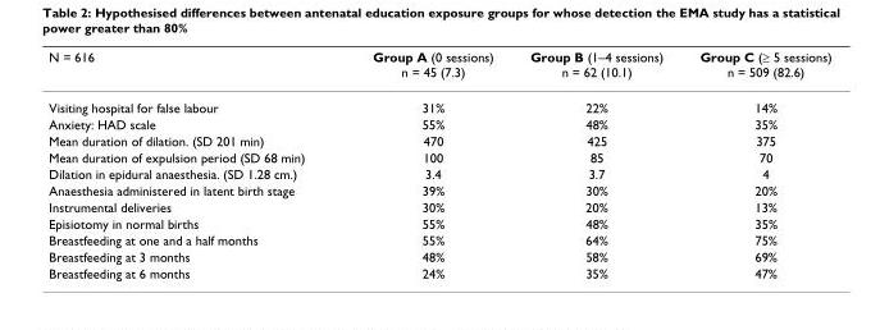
<table><thead><tr><td>N = 616</td><td>Group A (0 sessions) n = 45 (7.3)</td><td>Group B (1–4 sessions) n = 62 (10.1)</td><td>Group C (≥ 5 sessions) n = 509 (82.6)</td></tr></thead><tbody><tr><td>Visiting hospital for false labour</td><td>31%</td><td>22%</td><td>14%</td></tr><tr><td>Anxiety: HAD scale</td><td>55%</td><td>48%</td><td>35%</td></tr><tr><td>Mean duration of dilation. (SD 201 min)</td><td>470</td><td>425</td><td>375</td></tr><tr><td>Mean duration of expulsion period (SD 68 min)</td><td>100</td><td>85</td><td>70</td></tr><tr><td>Dilation in epidural anaesthesia. (SD 1.28 cm.)</td><td>3.4</td><td>3.7</td><td>4</td></tr><tr><td>Anaesthesia administered in latent birth stage</td><td>39%</td><td>30%</td><td>20%</td></tr><tr><td>Instrumental deliveries</td><td>30%</td><td>20%</td><td>13%</td></tr><tr><td>Episiotomy in normal births</td><td>55%</td><td>48%</td><td>35%</td></tr><tr><td>Breastfeeding at one and a half months</td><td>55%</td><td>64%</td><td>75%</td></tr><tr><td>Breastfeeding at 3 months</td><td>48%</td><td>58%</td><td>69%</td></tr><tr><td>Breastfeeding at 6 months</td><td>24%</td><td>35%</td><td>47%</td></tr></tbody></table>